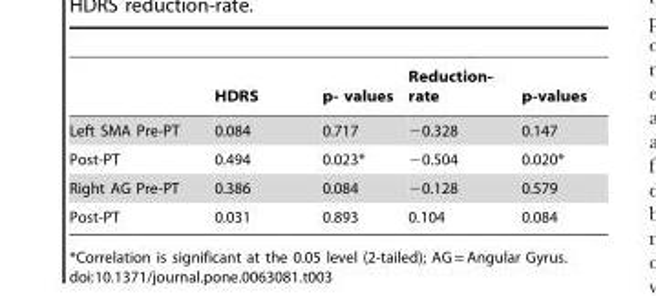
<table><thead><tr><td></td><td>HDRS</td><td>p- values</td><td>Reduction- rate</td><td>p-values</td></tr></thead><tbody><tr><td>Left SMA Pre-PT</td><td>0.084</td><td>0.717</td><td>−0.328</td><td>0.147</td></tr><tr><td>Post-PT</td><td>0.494</td><td>0.023*</td><td>−0.504</td><td>0.020*</td></tr><tr><td>Right AG Pre-PT</td><td>0.386</td><td>0.084</td><td>−0.128</td><td>0.579</td></tr><tr><td>Post-PT</td><td>0.031</td><td>0.893</td><td>0.104</td><td>0.084</td></tr></tbody></table>